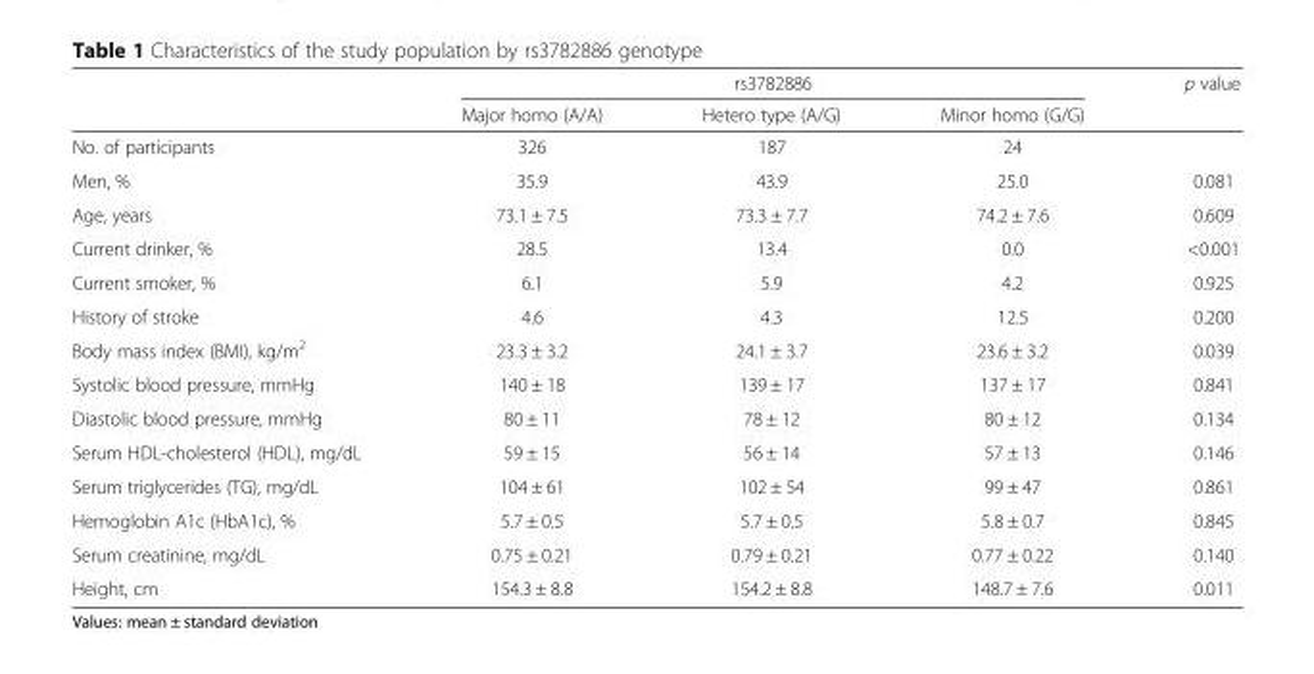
<table><thead><tr><td rowspan="2"></td><td colspan="3">rs3782886</td><td rowspan="2">p value</td></tr><tr><td>Major homo (A/A)</td><td>Hetero type (A/G)</td><td>Minor homo (G/G)</td></tr></thead><tbody><tr><td>No. of participants</td><td>326</td><td>187</td><td>24</td><td></td></tr><tr><td>Men, %</td><td>35.9</td><td>43.9</td><td>25.0</td><td>0.081</td></tr><tr><td>Age, years</td><td>73.1 ± 7.5</td><td>73.3 ± 7.7</td><td>74.2 ± 7.6</td><td>0.609</td></tr><tr><td>Current drinker, %</td><td>28.5</td><td>13.4</td><td>0.0</td><td>&lt;0.001</td></tr><tr><td>Current smoker, %</td><td>6.1</td><td>5.9</td><td>4.2</td><td>0.925</td></tr><tr><td>History of stroke</td><td>4.6</td><td>4.3</td><td>12.5</td><td>0.200</td></tr><tr><td>Body mass index (BMI), kg/m<sup>2</sup></td><td>23.3 ± 3.2</td><td>24.1 ± 3.7</td><td>23.6 ± 3.2</td><td>0.039</td></tr><tr><td>Systolic blood pressure, mmHg</td><td>140 ± 18</td><td>139 ± 17</td><td>137 ± 17</td><td>0.841</td></tr><tr><td>Diastolic blood pressure, mmHg</td><td>80 ± 11</td><td>78 ± 12</td><td>80 ± 12</td><td>0.134</td></tr><tr><td>Serum HDL-cholesterol (HDL), mg/dL</td><td>59 ± 15</td><td>56 ± 14</td><td>57 ± 13</td><td>0.146</td></tr><tr><td>Serum triglycerides (TG), mg/dL</td><td>104 ± 61</td><td>102 ± 54</td><td>99 ± 47</td><td>0.861</td></tr><tr><td>Hemoglobin A1c (HbA1c), %</td><td>5.7 ± 0.5</td><td>5.7 ± 0.5</td><td>5.8 ± 0.7</td><td>0.845</td></tr><tr><td>Serum creatinine, mg/dL</td><td>0.75 ± 0.21</td><td>0.79 ± 0.21</td><td>0.77 ± 0.22</td><td>0.140</td></tr><tr><td>Height, cm</td><td>154.3 ± 8.8</td><td>154.2 ± 8.8</td><td>148.7 ± 7.6</td><td>0.011</td></tr></tbody></table>